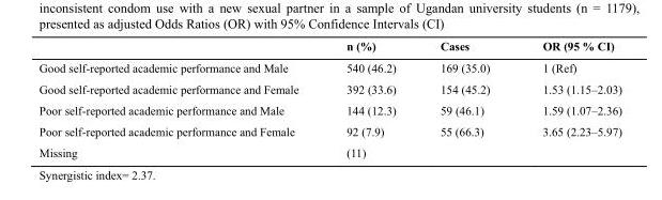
<table><thead><tr><td></td><td>n (%)</td><td>Cases</td><td>OR (95 % CI)</td></tr></thead><tbody><tr><td>Good self-reported academic performance and Male</td><td>540 (46.2)</td><td>169 (35.0)</td><td>1 (Ref)</td></tr><tr><td>Good self-reported academic performance and Female</td><td>392 (33.6)</td><td>154 (45.2)</td><td>1.53 (1.15–2.03)</td></tr><tr><td>Poor self-reported academic performance and Male</td><td>144 (12.3)</td><td>59 (46.1)</td><td>1.59 (1.07–2.36)</td></tr><tr><td>Poor self-reported academic performance and Female</td><td>92 (7.9)</td><td>55 (66.3)</td><td>3.65 (2.23–5.97)</td></tr><tr><td>Missing</td><td>(11)</td><td></td><td></td></tr></tbody></table>